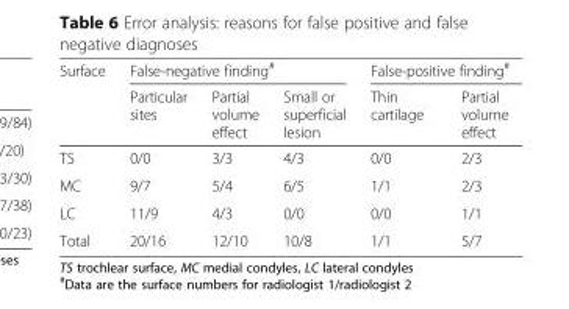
<table><thead><tr><td rowspan="2">Surface</td><td colspan="3">False-negative finding<sup>#</sup></td><td colspan="2">False-positive finding<sup>#</sup></td></tr><tr><td>Particular sites</td><td>Partial volume effect</td><td>Small or superficial lesion</td><td>Thin cartilage</td><td>Partial volume effect</td></tr></thead><tbody><tr><td>TS</td><td>0/0</td><td>3/3</td><td>4/3</td><td>0/0</td><td>2/3</td></tr><tr><td>MC</td><td>9/7</td><td>5/4</td><td>6/5</td><td>1/1</td><td>2/3</td></tr><tr><td>LC</td><td>11/9</td><td>4/3</td><td>0/0</td><td>0/0</td><td>1/1</td></tr><tr><td>Total</td><td>20/16</td><td>12/10</td><td>10/8</td><td>1/1</td><td>5/7</td></tr></tbody></table>